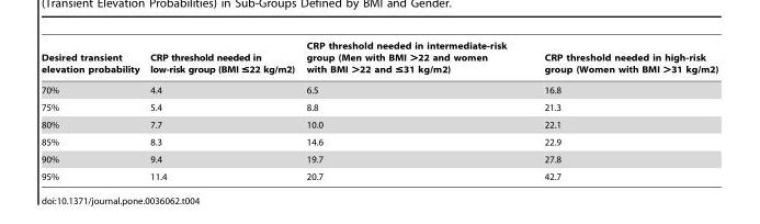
<table><thead><tr><td>Desired transient elevation probability</td><td>CRP threshold needed in low-risk group (BMI ≤22 kg/m2)</td><td>CRP threshold needed in intermediate-risk group (Men with BMI &gt;22 and women with BMI &gt;22 and ≤31 kg/m2)</td><td>CRP threshold needed in high-risk group (Women with BMI &gt;31 kg/m2)</td></tr></thead><tbody><tr><td>70%</td><td>4.4</td><td>6.5</td><td>16.8</td></tr><tr><td>75%</td><td>5.4</td><td>8.8</td><td>21.3</td></tr><tr><td>80%</td><td>7.7</td><td>10.0</td><td>22.1</td></tr><tr><td>85%</td><td>8.3</td><td>14.6</td><td>22.9</td></tr><tr><td>90%</td><td>9.4</td><td>19.7</td><td>27.8</td></tr><tr><td>95%</td><td>11.4</td><td>20.7</td><td>42.7</td></tr></tbody></table>